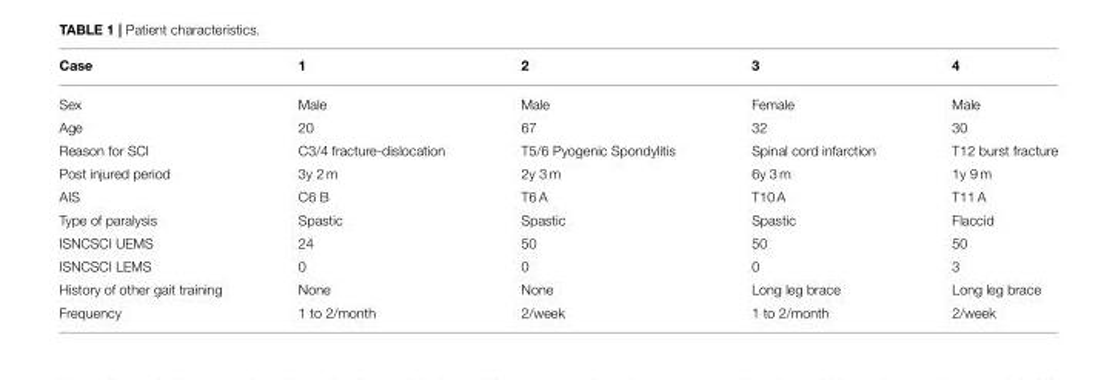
<table><thead><tr><td>Case</td><td>1</td><td>2</td><td>3</td><td>4</td></tr></thead><tbody><tr><td>Sex</td><td>Male</td><td>Male</td><td>Female</td><td>Male</td></tr><tr><td>Age</td><td>20</td><td>67</td><td>32</td><td>30</td></tr><tr><td>Reason for SCI</td><td>C3/4 fracture-dislocation</td><td>T5/6 Pyogenic Spondylitis</td><td>Spinal cord infarction</td><td>T12 burst fracture</td></tr><tr><td>Post injured period</td><td>3y 2 m</td><td>2y 3 m</td><td>6y 3 m</td><td>1y 9 m</td></tr><tr><td>AIS</td><td>C6 B</td><td>T6 A</td><td>T10 A</td><td>T11 A</td></tr><tr><td>Type of paralysis</td><td>Spastic</td><td>Spastic</td><td>Spastic</td><td>Flaccid</td></tr><tr><td>ISNCSCI UEMS</td><td>24</td><td>50</td><td>50</td><td>50</td></tr><tr><td>ISNCSCI LEMS</td><td>0</td><td>0</td><td>0</td><td>3</td></tr><tr><td>History of other gait training</td><td>None</td><td>None</td><td>Long leg brace</td><td>Long leg brace</td></tr><tr><td>Frequency</td><td>1 to 2/month</td><td>2/week</td><td>1 to 2/month</td><td>2/week</td></tr></tbody></table>